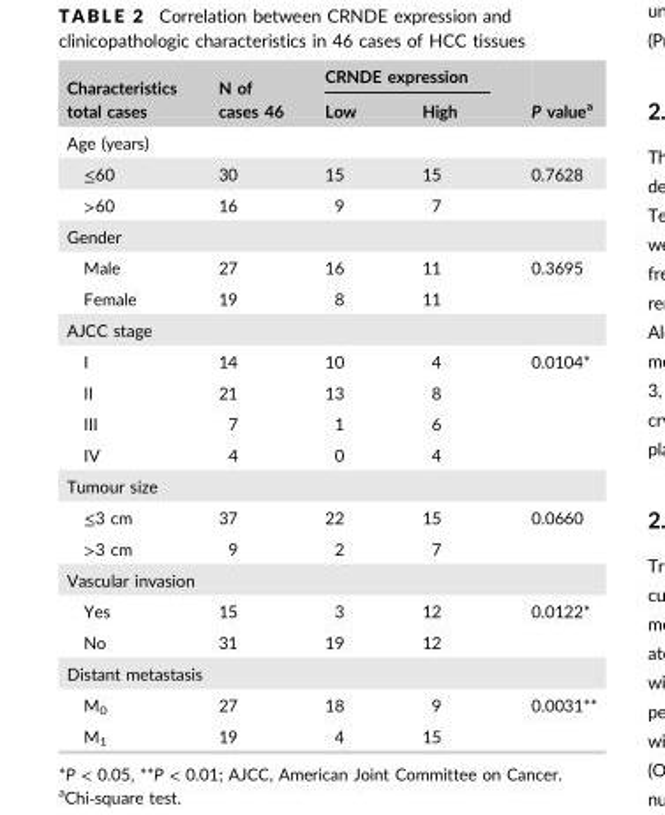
<table><thead><tr><td rowspan="2">Characteristics total cases</td><td rowspan="2">N of cases 46</td><td colspan="2">CRNDE expression</td><td rowspan="2">P value<sup>a</sup></td></tr><tr><td>Low</td><td>High</td></tr></thead><tbody><tr><td colspan="5">Age (years)</td></tr><tr><td>≤60</td><td>30</td><td>15</td><td>15</td><td>0.7628</td></tr><tr><td>&gt;60</td><td>16</td><td>9</td><td>7</td><td></td></tr><tr><td colspan="5">Gender</td></tr><tr><td>Male</td><td>27</td><td>16</td><td>11</td><td rowspan="2">0.3695</td></tr><tr><td>Female</td><td>19</td><td>8</td><td>11</td></tr><tr><td colspan="5">AJCC stage</td></tr><tr><td>I</td><td>14</td><td>10</td><td>4</td><td rowspan="4">0.0104*</td></tr><tr><td>II</td><td>21</td><td>13</td><td>8</td></tr><tr><td>III</td><td>7</td><td>1</td><td>6</td></tr><tr><td>IV</td><td>4</td><td>0</td><td>4</td></tr><tr><td colspan="5">Tumour size</td></tr><tr><td>≤3 cm</td><td>37</td><td>22</td><td>15</td><td rowspan="2">0.0660</td></tr><tr><td>&gt;3 cm</td><td>9</td><td>2</td><td>7</td></tr><tr><td colspan="5">Vascular invasion</td></tr><tr><td>Yes</td><td>15</td><td>3</td><td>12</td><td rowspan="2">0.0122*</td></tr><tr><td>No</td><td>31</td><td>19</td><td>12</td></tr><tr><td colspan="5">Distant metastasis</td></tr><tr><td>M<sub>0</sub></td><td>27</td><td>18</td><td>9</td><td rowspan="2">0.0031**</td></tr><tr><td>M<sub>1</sub></td><td>19</td><td>4</td><td>15</td></tr></tbody></table>